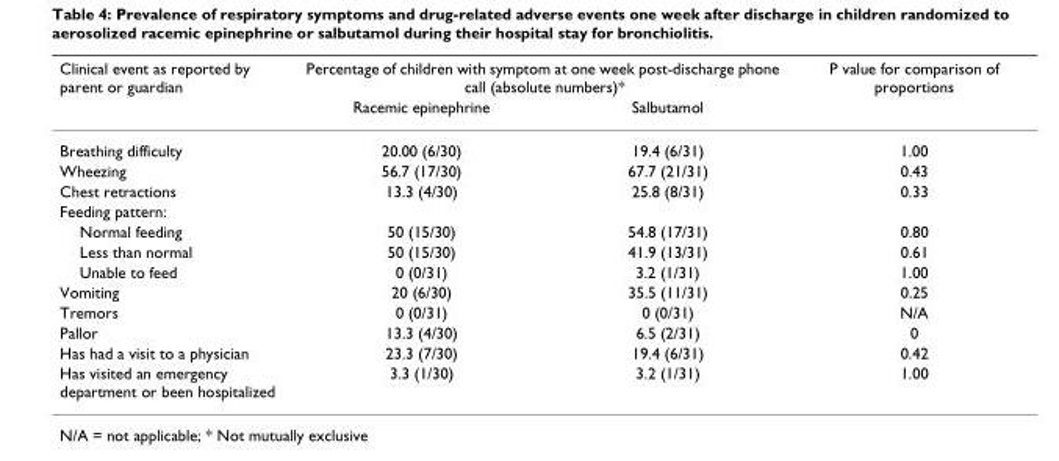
<table><thead><tr><td rowspan="2">Clinical event as reported by parent or guardian</td><td colspan="2">Percentage of children with symptom at one week post-discharge phone call (absolute numbers)*</td><td rowspan="2">P value for comparison of proportions</td></tr><tr><td>Racemic epinephrine</td><td>Salbutamol</td></tr></thead><tbody><tr><td>Breathing difficulty</td><td>20.00 (6/30)</td><td>19.4 (6/31)</td><td>1.00</td></tr><tr><td>Wheezing</td><td>56.7 (17/30)</td><td>67.7 (21/31)</td><td>0.43</td></tr><tr><td>Chest retractions</td><td>13.3 (4/30)</td><td>25.8 (8/31)</td><td>0.33</td></tr><tr><td colspan="4">Feeding pattern:</td></tr><tr><td>Normal feeding</td><td>50 (15/30)</td><td>54.8 (17/31)</td><td>0.80</td></tr><tr><td>Less than normal</td><td>50 (15/30)</td><td>41.9 (13/31)</td><td>0.61</td></tr><tr><td>Unable to feed</td><td>0 (0/31)</td><td>3.2 (1/31)</td><td>1.00</td></tr><tr><td>Vomiting</td><td>20 (6/30)</td><td>35.5 (11/31)</td><td>0.25</td></tr><tr><td>Tremors</td><td>0 (0/31)</td><td>0 (0/31)</td><td>N/A</td></tr><tr><td>Pallor</td><td>13.3 (4/30)</td><td>6.5 (2/31)</td><td>0</td></tr><tr><td>Has had a visit to a physician</td><td>23.3 (7/30)</td><td>19.4 (6/31)</td><td>0.42</td></tr><tr><td>Has visited an emergency department or been hospitalized</td><td>3.3 (1/30)</td><td>3.2 (1/31)</td><td>1.00</td></tr></tbody></table>